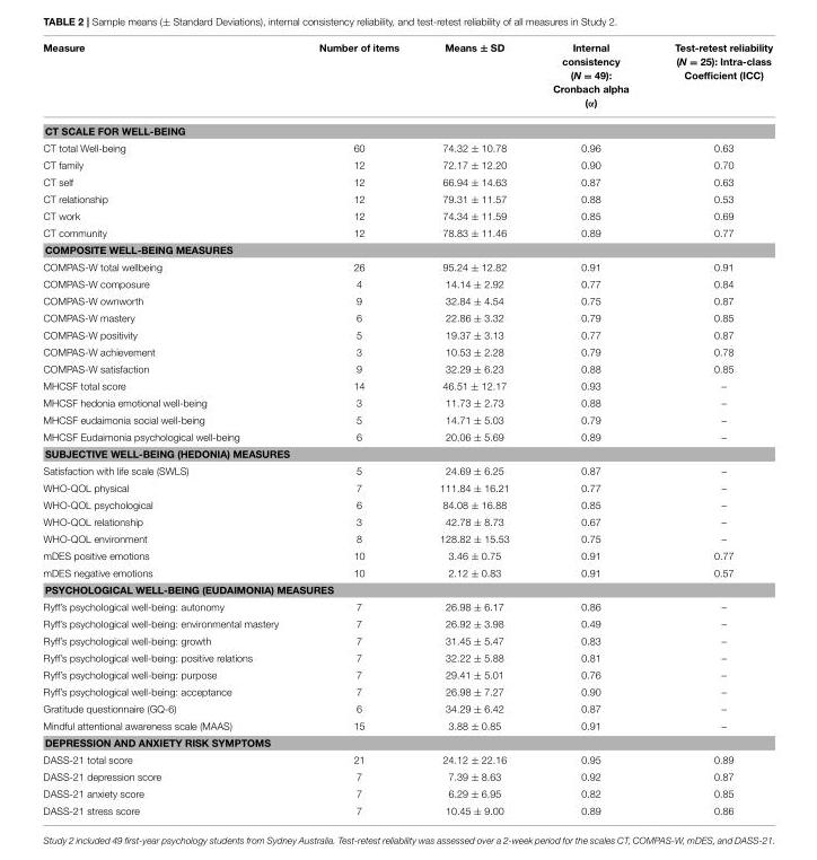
<table><thead><tr><td>Measure</td><td>Number of items</td><td>Means ± SD</td><td>Internal consistency (N = 49): Cronbach alpha (α)</td><td>Test-retest reliability (N = 25): Intra-class Coefficient (ICC)</td></tr></thead><tbody><tr><td colspan="5">CT SCALE FOR WELL-BEING</td></tr><tr><td>CT total Well-being</td><td>60</td><td>74.32 ± 10.78</td><td>0.96</td><td>0.63</td></tr><tr><td>CT family</td><td>12</td><td>72.17 ± 12.20</td><td>0.90</td><td>0.70</td></tr><tr><td>CT self</td><td>12</td><td>66.94 ± 14.63</td><td>0.87</td><td>0.63</td></tr><tr><td>CT relationship</td><td>12</td><td>79.31 ± 11.57</td><td>0.88</td><td>0.53</td></tr><tr><td>CT work</td><td>12</td><td>74.34 ± 11.59</td><td>0.85</td><td>0.69</td></tr><tr><td>CT community</td><td>12</td><td>78.83 ± 11.46</td><td>0.89</td><td>0.77</td></tr><tr><td colspan="5">COMPOSITE WELL-BEING MEASURES</td></tr><tr><td>COMPAS-W total wellbeing</td><td>26</td><td>95.24 ± 12.82</td><td>0.91</td><td>0.91</td></tr><tr><td>COMPAS-W composure</td><td>4</td><td>14.14 ± 2.92</td><td>0.77</td><td>0.84</td></tr><tr><td>COMPAS-W ownworth</td><td>9</td><td>32.84 ± 4.54</td><td>0.75</td><td>0.87</td></tr><tr><td>COMPAS-W mastery</td><td>6</td><td>22.86 ± 3.32</td><td>0.79</td><td>0.85</td></tr><tr><td>COMPAS-W positivity</td><td>5</td><td>19.37 ± 3.13</td><td>0.77</td><td>0.87</td></tr><tr><td>COMPAS-W achievement</td><td>3</td><td>10.53 ± 2.28</td><td>0.79</td><td>0.78</td></tr><tr><td>COMPAS-W satisfaction</td><td>9</td><td>32.29 ± 6.23</td><td>0.88</td><td>0.85</td></tr><tr><td>MHCSF total score</td><td>14</td><td>46.51 ± 12.17</td><td>0.93</td><td>–</td></tr><tr><td>MHCSF hedonia emotional well-being</td><td>3</td><td>11.73 ± 2.73</td><td>0.88</td><td>–</td></tr><tr><td>MHCSF eudaimonia social well-being</td><td>5</td><td>14.71 ± 5.03</td><td>0.79</td><td>–</td></tr><tr><td>MHCSF Eudaimonia psychological well-being</td><td>6</td><td>20.06 ± 5.69</td><td>0.89</td><td>–</td></tr><tr><td colspan="5">SUBJECTIVE WELL-BEING (HEDONIA) MEASURES</td></tr><tr><td>Satisfaction with life scale (SWLS)</td><td>5</td><td>24.69 ± 6.25</td><td>0.87</td><td>–</td></tr><tr><td>WHO-QOL physical</td><td>7</td><td>111.84 ± 16.21</td><td>0.77</td><td>–</td></tr><tr><td>WHO-QOL psychological</td><td>6</td><td>84.08 ± 16.88</td><td>0.85</td><td>–</td></tr><tr><td>WHO-QOL relationship</td><td>3</td><td>42.78 ± 8.73</td><td>0.67</td><td>–</td></tr><tr><td>WHO-QOL environment</td><td>8</td><td>128.82 ± 15.53</td><td>0.75</td><td>–</td></tr><tr><td>mDES positive emotions</td><td>10</td><td>3.46 ± 0.75</td><td>0.91</td><td>0.77</td></tr><tr><td>mDES negative emotions</td><td>10</td><td>2.12 ± 0.83</td><td>0.91</td><td>0.57</td></tr><tr><td colspan="5">PSYCHOLOGICAL WELL-BEING (EUDAIMONIA) MEASURES</td></tr><tr><td>Ryff’s psychological well-being: autonomy</td><td>7</td><td>26.98 ± 6.17</td><td>0.86</td><td>–</td></tr><tr><td>Ryff’s psychological well-being: environmental mastery</td><td>7</td><td>26.92 ± 3.98</td><td>0.49</td><td>–</td></tr><tr><td>Ryff’s psychological well-being: growth</td><td>7</td><td>31.45 ± 5.47</td><td>0.83</td><td>–</td></tr><tr><td>Ryff’s psychological well-being: positive relations</td><td>7</td><td>32.22 ± 5.88</td><td>0.81</td><td>–</td></tr><tr><td>Ryff’s psychological well-being: purpose</td><td>7</td><td>29.41 ± 5.01</td><td>0.76</td><td>–</td></tr><tr><td>Ryff’s psychological well-being: acceptance</td><td>7</td><td>26.98 ± 7.27</td><td>0.90</td><td>–</td></tr><tr><td>Gratitude questionnaire (GQ-6)</td><td>6</td><td>34.29 ± 6.42</td><td>0.87</td><td>–</td></tr><tr><td>Mindful attentional awareness scale (MAAS)</td><td>15</td><td>3.88 ± 0.85</td><td>0.91</td><td>–</td></tr><tr><td colspan="5">DEPRESSION AND ANXIETY RISK SYMPTOMS</td></tr><tr><td>DASS-21 total score</td><td>21</td><td>24.12 ± 22.16</td><td>0.95</td><td>0.89</td></tr><tr><td>DASS-21 depression score</td><td>7</td><td>7.39 ± 8.63</td><td>0.92</td><td>0.87</td></tr><tr><td>DASS-21 anxiety score</td><td>7</td><td>6.29 ± 6.95</td><td>0.82</td><td>0.85</td></tr><tr><td>DASS-21 stress score</td><td>7</td><td>10.45 ± 9.00</td><td>0.89</td><td>0.86</td></tr></tbody></table>